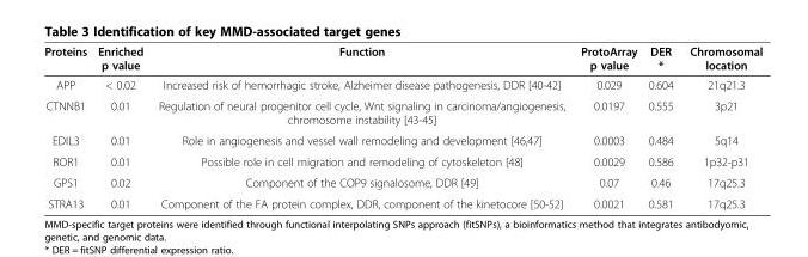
<table><thead><tr><td>Proteins</td><td>Enriched p value</td><td>Function</td><td>ProtoArray p value</td><td>DER *</td><td>Chromosomal location</td></tr></thead><tbody><tr><td>APP</td><td>&lt; 0.02</td><td>Increased risk of hemorrhagic stroke, Alzheimer disease pathogenesis, DDR [40-42]</td><td>0.029</td><td>0.604</td><td>21q21.3</td></tr><tr><td>CTNNB1</td><td>0.01</td><td>Regulation of neural progenitor cell cycle, Wnt signaling in carcinoma/angiogenesis, chromosome instability [43-45]</td><td>0.0197</td><td>0.555</td><td>3p21</td></tr><tr><td>EDIL3</td><td>0.01</td><td>Role in angiogenesis and vessel wall remodeling and development [46,47]</td><td>0.0003</td><td>0.484</td><td>5q14</td></tr><tr><td>ROR1</td><td>0.01</td><td>Possible role in cell migration and remodeling of cytoskeleton [48]</td><td>0.0029</td><td>0.586</td><td>1p32-p31</td></tr><tr><td>GPS1</td><td>0.02</td><td>Component of the COP9 signalosome, DDR [49]</td><td>0.07</td><td>0.46</td><td>17q25.3</td></tr><tr><td>STRA13</td><td>0.01</td><td>Component of the FA protein complex, DDR, component of the kinetocore [50-52]</td><td>0.0021</td><td>0.581</td><td>17q25.3</td></tr></tbody></table>